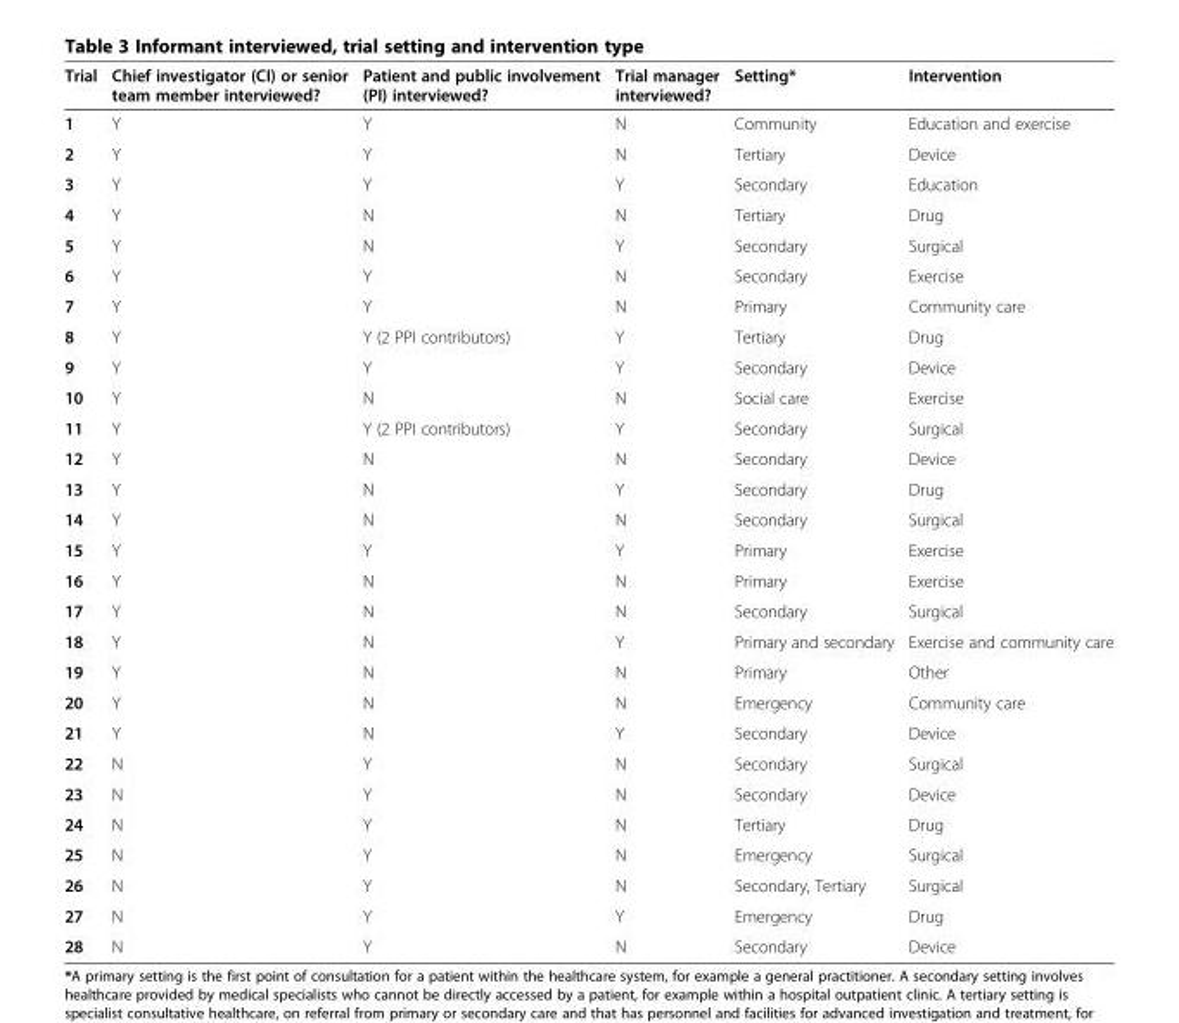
<table><thead><tr><td>Trial</td><td>Chief investigator (CI) or senior team member interviewed?</td><td>Patient and public involvement (PI) interviewed?</td><td>Trial manager interviewed?</td><td>Setting*</td><td>Intervention</td></tr></thead><tbody><tr><td>1</td><td>Y</td><td>Y</td><td>N</td><td>Community</td><td>Education and exercise</td></tr><tr><td>2</td><td>Y</td><td>Y</td><td>N</td><td>Tertiary</td><td>Device</td></tr><tr><td>3</td><td>Y</td><td>Y</td><td>Y</td><td>Secondary</td><td>Education</td></tr><tr><td>4</td><td>Y</td><td>N</td><td>N</td><td>Tertiary</td><td>Drug</td></tr><tr><td>5</td><td>Y</td><td>N</td><td>Y</td><td>Secondary</td><td>Surgical</td></tr><tr><td>6</td><td>Y</td><td>Y</td><td>N</td><td>Secondary</td><td>Exercise</td></tr><tr><td>7</td><td>Y</td><td>Y</td><td>N</td><td>Primary</td><td>Community care</td></tr><tr><td>8</td><td>Y</td><td>Y (2 PPI contributors)</td><td>Y</td><td>Tertiary</td><td>Drug</td></tr><tr><td>9</td><td>Y</td><td>Y</td><td>Y</td><td>Secondary</td><td>Device</td></tr><tr><td>10</td><td>Y</td><td>N</td><td>N</td><td>Social care</td><td>Exercise</td></tr><tr><td>11</td><td>Y</td><td>Y (2 PPI contributors)</td><td>Y</td><td>Secondary</td><td>Surgical</td></tr><tr><td>12</td><td>Y</td><td>N</td><td>N</td><td>Secondary</td><td>Device</td></tr><tr><td>13</td><td>Y</td><td>N</td><td>Y</td><td>Secondary</td><td>Drug</td></tr><tr><td>14</td><td>Y</td><td>N</td><td>N</td><td>Secondary</td><td>Surgical</td></tr><tr><td>15</td><td>Y</td><td>Y</td><td>Y</td><td>Primary</td><td>Exercise</td></tr><tr><td>16</td><td>Y</td><td>N</td><td>N</td><td>Primary</td><td>Exercise</td></tr><tr><td>17</td><td>Y</td><td>N</td><td>N</td><td>Secondary</td><td>Surgical</td></tr><tr><td>18</td><td>Y</td><td>N</td><td>Y</td><td>Primary and secondary</td><td>Exercise and community care</td></tr><tr><td>19</td><td>Y</td><td>N</td><td>N</td><td>Primary</td><td>Other</td></tr><tr><td>20</td><td>Y</td><td>N</td><td>N</td><td>Emergency</td><td>Community care</td></tr><tr><td>21</td><td>Y</td><td>N</td><td>Y</td><td>Secondary</td><td>Device</td></tr><tr><td>22</td><td>N</td><td>Y</td><td>N</td><td>Secondary</td><td>Surgical</td></tr><tr><td>23</td><td>N</td><td>Y</td><td>N</td><td>Secondary</td><td>Device</td></tr><tr><td>24</td><td>N</td><td>Y</td><td>N</td><td>Tertiary</td><td>Drug</td></tr><tr><td>25</td><td>N</td><td>Y</td><td>N</td><td>Emergency</td><td>Surgical</td></tr><tr><td>26</td><td>N</td><td>Y</td><td>N</td><td>Secondary, Tertiary</td><td>Surgical</td></tr><tr><td>27</td><td>N</td><td>Y</td><td>Y</td><td>Emergency</td><td>Drug</td></tr><tr><td>28</td><td>N</td><td>Y</td><td>N</td><td>Secondary</td><td>Device</td></tr></tbody></table>